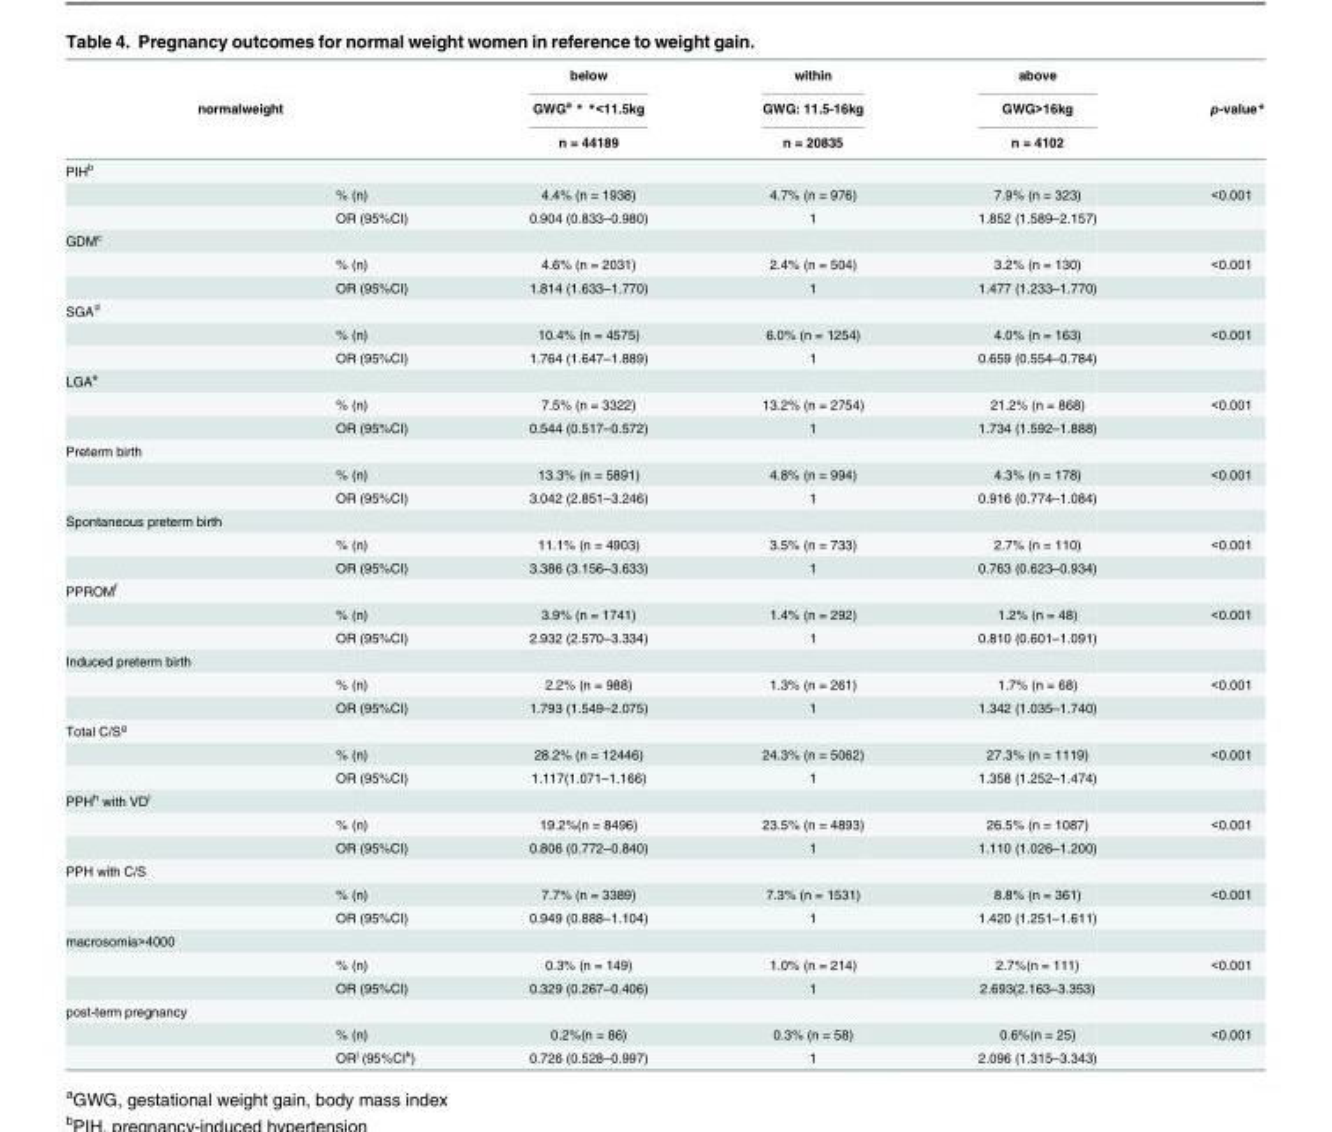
<table><thead><tr><td></td><td></td><td rowspan="3">below GWG<sup>a</sup> * *&lt;11.5kg n = 44189</td><td rowspan="3">within GWG: 11.5-16kg n = 20835</td><td rowspan="3">above GWG&gt;16kg n = 4102</td><td rowspan="3">p-value*</td></tr><tr><td colspan="2">normalweight</td></tr><tr><td></td><td></td></tr></thead><tbody><tr><td colspan="6">PIH<sup>b</sup></td></tr><tr><td></td><td>% (n)</td><td>4.4% (n = 1938)</td><td>4.7% (n = 976)</td><td>7.9% (n = 323)</td><td>&lt;0.001</td></tr><tr><td></td><td>OR (95%CI)</td><td>0.904 (0.833–0.980)</td><td>1</td><td>1.852 (1.589–2.157)</td><td></td></tr><tr><td colspan="6">GDM<sup>c</sup></td></tr><tr><td></td><td>% (n)</td><td>4.6% (n = 2031)</td><td>2.4% (n = 504)</td><td>3.2% (n = 130)</td><td>&lt;0.001</td></tr><tr><td></td><td>OR (95%CI)</td><td>1.814 (1.633–1.770)</td><td>1</td><td>1.477 (1.233–1.770)</td><td></td></tr><tr><td colspan="6">SGA<sup>d</sup></td></tr><tr><td></td><td>% (n)</td><td>10.4% (n = 4575)</td><td>6.0% (n = 1254)</td><td>4.0% (n = 163)</td><td>&lt;0.001</td></tr><tr><td></td><td>OR (95%CI)</td><td>1.764 (1.647–1.889)</td><td>1</td><td>0.659 (0.554–0.784)</td><td></td></tr><tr><td colspan="6">LGA<sup>e</sup></td></tr><tr><td></td><td>% (n)</td><td>7.5% (n = 3322)</td><td>13.2% (n = 2754)</td><td>21.2% (n = 868)</td><td>&lt;0.001</td></tr><tr><td></td><td>OR (95%CI)</td><td>0.544 (0.517–0.572)</td><td>1</td><td>1.734 (1.592–1.888)</td><td></td></tr><tr><td colspan="6">Preterm birth</td></tr><tr><td></td><td>% (n)</td><td>13.3% (n = 5891)</td><td>4.8% (n = 994)</td><td>4.3% (n = 178)</td><td>&lt;0.001</td></tr><tr><td></td><td>OR (95%CI)</td><td>3.042 (2.851–3.246)</td><td>1</td><td>0.916 (0.774–1.084)</td><td></td></tr><tr><td colspan="6">Spontaneous preterm birth</td></tr><tr><td></td><td>% (n)</td><td>11.1% (n = 4903)</td><td>3.5% (n = 733)</td><td>2.7% (n = 110)</td><td>&lt;0.001</td></tr><tr><td></td><td>OR (95%CI)</td><td>3.386 (3.156–3.633)</td><td>1</td><td>0.763 (0.623–0.934)</td><td></td></tr><tr><td colspan="6">PPROM<sup>f</sup></td></tr><tr><td></td><td>% (n)</td><td>3.9% (n = 1741)</td><td>1.4% (n = 292)</td><td>1.2% (n = 48)</td><td>&lt;0.001</td></tr><tr><td></td><td>OR (95%CI)</td><td>2.932 (2.570–3.334)</td><td>1</td><td>0.810 (0.601–1.091)</td><td></td></tr><tr><td colspan="6">Induced preterm birth</td></tr><tr><td></td><td>% (n)</td><td>2.2% (n = 988)</td><td>1.3% (n = 261)</td><td>1.7% (n = 68)</td><td>&lt;0.001</td></tr><tr><td></td><td>OR (95%CI)</td><td>1.793 (1.549–2.075)</td><td>1</td><td>1.342 (1.035–1.740)</td><td></td></tr><tr><td colspan="6">Total C/S<sup>g</sup></td></tr><tr><td></td><td>% (n)</td><td>28.2% (n = 12446)</td><td>24.3% (n = 5062)</td><td>27.3% (n = 1119)</td><td>&lt;0.001</td></tr><tr><td></td><td>OR (95%CI)</td><td>1.117(1.071–1.166)</td><td>1</td><td>1.358 (1.252–1.474)</td><td></td></tr><tr><td colspan="6">PPH<sup>h</sup> with VD<sup>i</sup></td></tr><tr><td></td><td>% (n)</td><td>19.2%(n = 8496)</td><td>23.5% (n = 4893)</td><td>26.5% (n = 1087)</td><td>&lt;0.001</td></tr><tr><td></td><td>OR (95%CI)</td><td>0.806 (0.772–0.840)</td><td>1</td><td>1.110 (1.026–1.200)</td><td></td></tr><tr><td colspan="6">PPH with C/S</td></tr><tr><td></td><td>% (n)</td><td>7.7% (n = 3389)</td><td>7.3% (n = 1531)</td><td>8.8% (n = 361)</td><td>&lt;0.001</td></tr><tr><td></td><td>OR (95%CI)</td><td>0.949 (0.888–1.104)</td><td>1</td><td>1.420 (1.251–1.611)</td><td></td></tr><tr><td colspan="6">macrosomia&gt;4000</td></tr><tr><td></td><td>% (n)</td><td>0.3% (n = 149)</td><td>1.0% (n = 214)</td><td>2.7%(n = 111)</td><td>&lt;0.001</td></tr><tr><td></td><td>OR (95%CI)</td><td>0.329 (0.267–0.406)</td><td>1</td><td>2.693(2.163–3.353)</td><td></td></tr><tr><td colspan="6">post-term pregnancy</td></tr><tr><td></td><td>% (n)</td><td>0.2%(n = 86)</td><td>0.3% (n = 58)</td><td>0.6%(n = 25)</td><td>&lt;0.001</td></tr><tr><td></td><td>OR<sup>j</sup> (95%CI<sup>k</sup>)</td><td>0.726 (0.528–0.997)</td><td>1</td><td>2.096 (1.315–3.343)</td><td></td></tr></tbody></table>